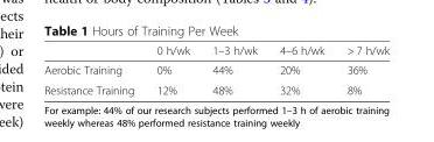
<table><thead><tr><td></td><td>0 h/wk</td><td>1–3 h/wk</td><td>4–6 h/wk</td><td>&gt; 7 h/wk</td></tr></thead><tbody><tr><td>Aerobic Training</td><td>0%</td><td>44%</td><td>20%</td><td>36%</td></tr><tr><td>Resistance Training</td><td>12%</td><td>48%</td><td>32%</td><td>8%</td></tr></tbody></table>